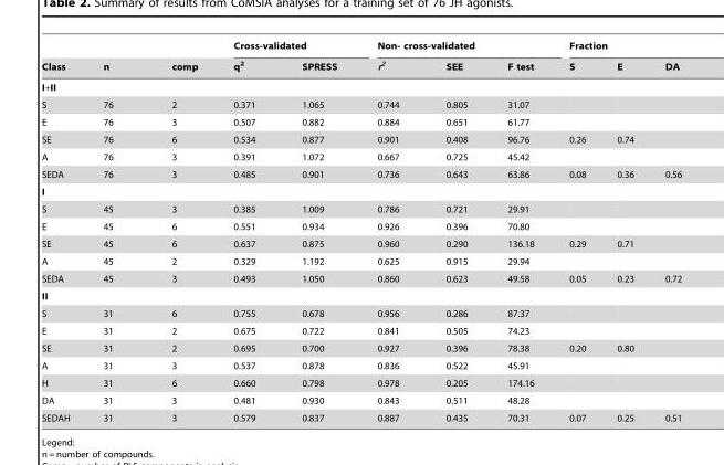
<table><thead><tr><td rowspan="2">Class</td><td rowspan="2">n</td><td rowspan="2">comp</td><td colspan="2">Cross-validated</td><td colspan="3">Non- cross-validated</td><td colspan="3">Fraction</td></tr><tr><td>q<sup>2</sup></td><td>SPRESS</td><td>r<sup>2</sup></td><td>SEE</td><td>F test</td><td>S</td><td>E</td><td>DA</td></tr></thead><tbody><tr><td colspan="11">I+II</td></tr><tr><td>S</td><td>76</td><td>2</td><td>0.371</td><td>1.065</td><td>0.744</td><td>0.805</td><td>31.07</td><td></td><td></td><td></td></tr><tr><td>E</td><td>76</td><td>3</td><td>0.507</td><td>0.882</td><td>0.884</td><td>0.651</td><td>61.77</td><td></td><td></td><td></td></tr><tr><td>SE</td><td>76</td><td>6</td><td>0.534</td><td>0.877</td><td>0.901</td><td>0.408</td><td>96.76</td><td>0.26</td><td>0.74</td><td></td></tr><tr><td>A</td><td>76</td><td>3</td><td>0.391</td><td>1.072</td><td>0.667</td><td>0.725</td><td>45.42</td><td></td><td></td><td></td></tr><tr><td>SEDA</td><td>76</td><td>3</td><td>0.485</td><td>0.901</td><td>0.736</td><td>0.643</td><td>63.86</td><td>0.08</td><td>0.36</td><td>0.56</td></tr><tr><td colspan="11">I</td></tr><tr><td>S</td><td>45</td><td>3</td><td>0.385</td><td>1.009</td><td>0.786</td><td>0.721</td><td>29.91</td><td></td><td></td><td></td></tr><tr><td>E</td><td>45</td><td>6</td><td>0.551</td><td>0.934</td><td>0.926</td><td>0.396</td><td>70.80</td><td></td><td></td><td></td></tr><tr><td>SE</td><td>45</td><td>6</td><td>0.637</td><td>0.875</td><td>0.960</td><td>0.290</td><td>136.18</td><td>0.29</td><td>0.71</td><td></td></tr><tr><td>A</td><td>45</td><td>2</td><td>0.329</td><td>1.192</td><td>0.625</td><td>0.915</td><td>29.94</td><td></td><td></td><td></td></tr><tr><td>SEDA</td><td>45</td><td>3</td><td>0.493</td><td>1.050</td><td>0.860</td><td>0.623</td><td>49.58</td><td>0.05</td><td>0.23</td><td>0.72</td></tr><tr><td colspan="11">II</td></tr><tr><td>S</td><td>31</td><td>6</td><td>0.755</td><td>0.678</td><td>0.956</td><td>0.286</td><td>87.37</td><td></td><td></td><td></td></tr><tr><td>E</td><td>31</td><td>2</td><td>0.675</td><td>0.722</td><td>0.841</td><td>0.505</td><td>74.23</td><td></td><td></td><td></td></tr><tr><td>SE</td><td>31</td><td>2</td><td>0.695</td><td>0.700</td><td>0.927</td><td>0.396</td><td>78.38</td><td>0.20</td><td>0.80</td><td></td></tr><tr><td>A</td><td>31</td><td>3</td><td>0.537</td><td>0.878</td><td>0.836</td><td>0.522</td><td>45.91</td><td></td><td></td><td></td></tr><tr><td>H</td><td>31</td><td>6</td><td>0.660</td><td>0.798</td><td>0.978</td><td>0.205</td><td>174.16</td><td></td><td></td><td></td></tr><tr><td>DA</td><td>31</td><td>3</td><td>0.481</td><td>0.930</td><td>0.843</td><td>0.511</td><td>48.28</td><td></td><td></td><td></td></tr><tr><td>SEDAH</td><td>31</td><td>3</td><td>0.579</td><td>0.837</td><td>0.887</td><td>0.435</td><td>70.31</td><td>0.07</td><td>0.25</td><td>0.51</td></tr></tbody></table>